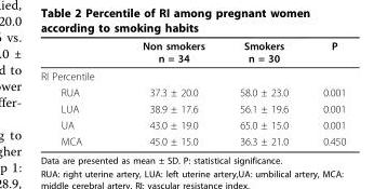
<table><thead><tr><td></td><td>Non smokers n = 34</td><td>Smokers n = 30</td><td>P</td></tr></thead><tbody><tr><td colspan="4">RI Percentile</td></tr><tr><td>RUA</td><td>37.3 ± 20.0</td><td>58.0 ± 23.0</td><td>0.001</td></tr><tr><td>LUA</td><td>38.9 ± 17.6</td><td>56.1 ± 19.6</td><td>0.001</td></tr><tr><td>UA</td><td>43.0 ± 19.0</td><td>65.0 ± 15.0</td><td>0.001</td></tr><tr><td>MCA</td><td>45.0 ± 15.0</td><td>36.3 ± 21.0</td><td>0.450</td></tr></tbody></table>